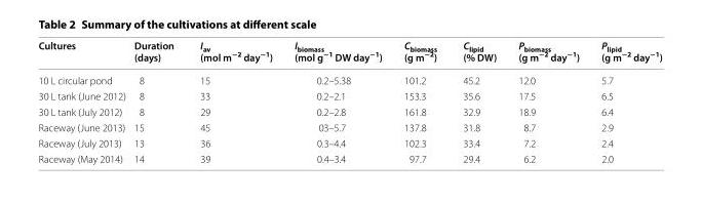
<table><thead><tr><td>Cultures</td><td>Duration (days)</td><td>I<sub>av</sub> (mol m<sup>−2</sup> day<sup>−1</sup>)</td><td>I<sub>biomass</sub> (mol g<sup>−1</sup> DW day<sup>−1</sup>)</td><td>C<sub>biomass</sub> (g m<sup>−2</sup>)</td><td>C<sub>lipid</sub> (% DW)</td><td>P<sub>biomass</sub> (g m<sup>−2</sup> day<sup>−1</sup>)</td><td>P<sub>lipid</sub> (g m<sup>−2</sup> day<sup>−1</sup>)</td></tr></thead><tbody><tr><td>10 L circular pond</td><td>8</td><td>15</td><td>0.2–5.38</td><td>101.2</td><td>45.2</td><td>12.0</td><td>5.7</td></tr><tr><td>30 L tank (June 2012)</td><td>8</td><td>33</td><td>0.2–2.1</td><td>153.3</td><td>35.6</td><td>17.5</td><td>6.5</td></tr><tr><td>30 L tank (July 2012)</td><td>8</td><td>29</td><td>0.2–2.8</td><td>161.8</td><td>32.9</td><td>18.9</td><td>6.4</td></tr><tr><td>Raceway (June 2013)</td><td>15</td><td>45</td><td>03–5.7</td><td>137.8</td><td>31.8</td><td>8.7</td><td>2.9</td></tr><tr><td>Raceway (July 2013)</td><td>13</td><td>36</td><td>0.3–4.4</td><td>102.3</td><td>33.4</td><td>7.2</td><td>2.4</td></tr><tr><td>Raceway (May 2014)</td><td>14</td><td>39</td><td>0.4–3.4</td><td>97.7</td><td>29.4</td><td>6.2</td><td>2.0</td></tr></tbody></table>